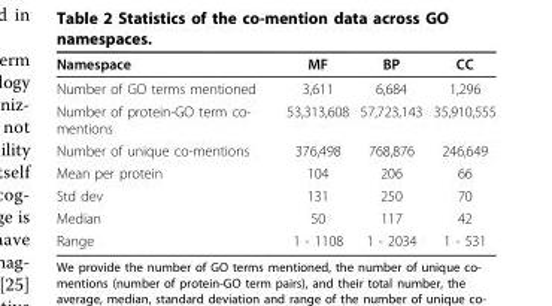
<table><thead><tr><td>Namespace</td><td>MF</td><td>BP</td><td>CC</td></tr></thead><tbody><tr><td>Number of GO terms mentioned</td><td>3,611</td><td>6,684</td><td>1,296</td></tr><tr><td>Number of protein-GO term co- mentions</td><td>53,313,608</td><td>57,723,143</td><td>35,910,555</td></tr><tr><td>Number of unique co-mentions</td><td>376,498</td><td>768,876</td><td>246,649</td></tr><tr><td>Mean per protein</td><td>104</td><td>206</td><td>66</td></tr><tr><td>Std dev</td><td>131</td><td>250</td><td>70</td></tr><tr><td>Median</td><td>50</td><td>117</td><td>42</td></tr><tr><td>Range</td><td>1 - 1108</td><td>1 - 2034</td><td>1 - 531</td></tr></tbody></table>